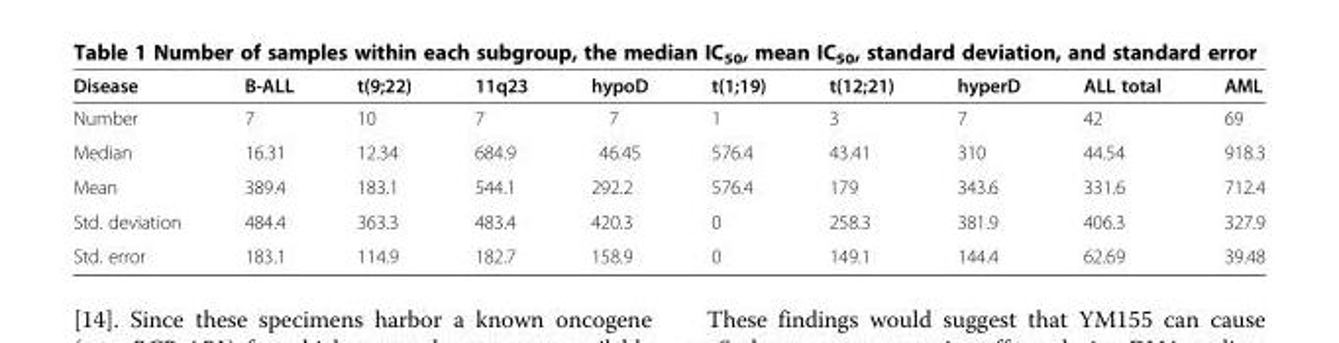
<table><thead><tr><td>Disease</td><td>B-ALL</td><td>t(9;22)</td><td>11q23</td><td>hypoD</td><td>t(1;19)</td><td>t(12;21)</td><td>hyperD</td><td>ALL total</td><td>AML</td></tr></thead><tbody><tr><td>Number</td><td>7</td><td>10</td><td>7</td><td>7</td><td>1</td><td>3</td><td>7</td><td>42</td><td>69</td></tr><tr><td>Median</td><td>16.31</td><td>12.34</td><td>684.9</td><td>46.45</td><td>576.4</td><td>43.41</td><td>310</td><td>44.54</td><td>918.3</td></tr><tr><td>Mean</td><td>389.4</td><td>183.1</td><td>544.1</td><td>292.2</td><td>576.4</td><td>179</td><td>343.6</td><td>331.6</td><td>712.4</td></tr><tr><td>Std. deviation</td><td>484.4</td><td>363.3</td><td>483.4</td><td>420.3</td><td>0</td><td>258.3</td><td>381.9</td><td>406.3</td><td>327.9</td></tr><tr><td>Std. error</td><td>183.1</td><td>114.9</td><td>182.7</td><td>158.9</td><td>0</td><td>149.1</td><td>144.4</td><td>62.69</td><td>39.48</td></tr></tbody></table>